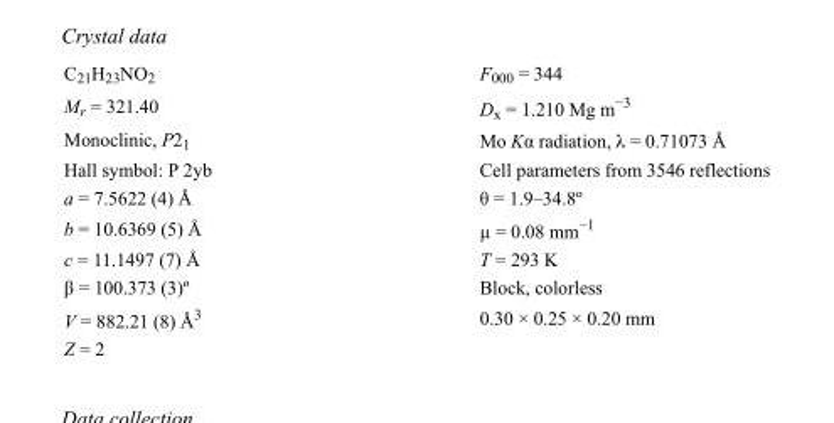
<table><tbody><tr><td>C<sub>21</sub>H<sub>23</sub>NO<sub>2</sub></td><td>F000 = 344</td></tr><tr><td>M<sub>r</sub> = 321.40</td><td>D<sub>x</sub> = 1.210 Mg m<sup>−3</sup></td></tr><tr><td>Monoclinic, P2<sub>1</sub></td><td>Mo Kα radiation, λ = 0.71073 Å</td></tr><tr><td>Hall symbol: P 2yb</td><td>Cell parameters from 3546 reflections</td></tr><tr><td>a = 7.5622 (4) Å</td><td>θ = 1.9–34.8º</td></tr><tr><td>b = 10.6369 (5) Å</td><td>µ = 0.08 mm<sup>−1</sup></td></tr><tr><td>c = 11.1497 (7) Å</td><td>T = 293 K</td></tr><tr><td>β = 100.373 (3)º</td><td>Block, colorless</td></tr><tr><td>V = 882.21 (8) Å<sup>3</sup></td><td>0.30 × 0.25 × 0.20 mm</td></tr><tr><td>Z = 2</td><td></td></tr></tbody></table>